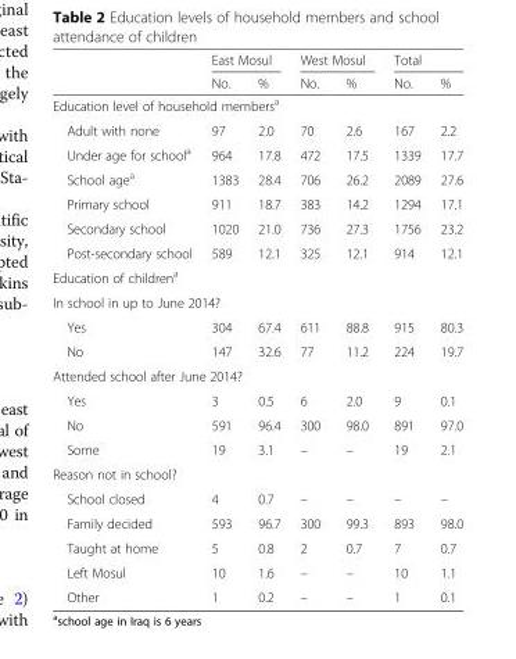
<table><thead><tr><td rowspan="2"></td><td colspan="2">East Mosul</td><td colspan="2">West Mosul</td><td colspan="2">Total</td></tr><tr><td>No.</td><td>%</td><td>No.</td><td>%</td><td>No.</td><td>%</td></tr></thead><tbody><tr><td colspan="7">Education level of household members<sup>a</sup></td></tr><tr><td>Adult with none</td><td>97</td><td>2.0</td><td>70</td><td>2.6</td><td>167</td><td>2.2</td></tr><tr><td>Under age for school<sup>a</sup></td><td>964</td><td>17.8</td><td>472</td><td>17.5</td><td>1339</td><td>17.7</td></tr><tr><td>School age<sup>a</sup></td><td>1383</td><td>28.4</td><td>706</td><td>26.2</td><td>2089</td><td>27.6</td></tr><tr><td>Primary school</td><td>911</td><td>18.7</td><td>383</td><td>14.2</td><td>1294</td><td>17.1</td></tr><tr><td>Secondary school</td><td>1020</td><td>21.0</td><td>736</td><td>27.3</td><td>1756</td><td>23.2</td></tr><tr><td>Post-secondary school</td><td>589</td><td>12.1</td><td>325</td><td>12.1</td><td>914</td><td>12.1</td></tr><tr><td colspan="7">Education of children<sup>a</sup></td></tr><tr><td colspan="7">In school in up to June 2014?</td></tr><tr><td>Yes</td><td>304</td><td>67.4</td><td>611</td><td>88.8</td><td>915</td><td>80.3</td></tr><tr><td>No</td><td>147</td><td>32.6</td><td>77</td><td>11.2</td><td>224</td><td>19.7</td></tr><tr><td colspan="7">Attended school after June 2014?</td></tr><tr><td>Yes</td><td>3</td><td>0.5</td><td>6</td><td>2.0</td><td>9</td><td>0.1</td></tr><tr><td>No</td><td>591</td><td>96.4</td><td>300</td><td>98.0</td><td>891</td><td>97.0</td></tr><tr><td>Some</td><td>19</td><td>3.1</td><td>–</td><td>–</td><td>19</td><td>2.1</td></tr><tr><td colspan="7">Reason not in school?</td></tr><tr><td>School closed</td><td>4</td><td>0.7</td><td>–</td><td>–</td><td>–</td><td>–</td></tr><tr><td>Family decided</td><td>593</td><td>96.7</td><td>300</td><td>99.3</td><td>893</td><td>98.0</td></tr><tr><td>Taught at home</td><td>5</td><td>0.8</td><td>2</td><td>0.7</td><td>7</td><td>0.7</td></tr><tr><td>Left Mosul</td><td>10</td><td>1.6</td><td>–</td><td>–</td><td>10</td><td>1.1</td></tr><tr><td>Other</td><td>1</td><td>0.2</td><td>–</td><td>–</td><td>1</td><td>0.1</td></tr></tbody></table>